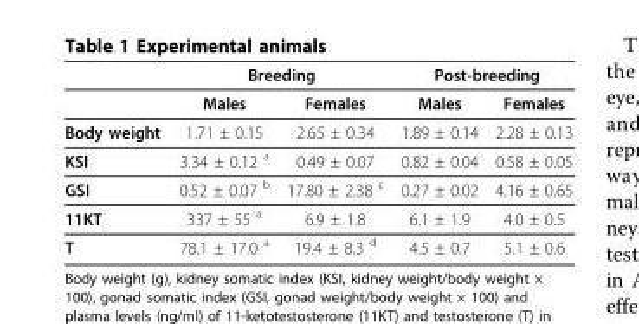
<table><thead><tr><td rowspan="2"></td><td colspan="2">Breeding</td><td colspan="2">Post-breeding</td></tr><tr><td>Males</td><td>Females</td><td>Males</td><td>Females</td></tr></thead><tbody><tr><td>Body weight</td><td>1.71 ± 0.15</td><td>2.65 ± 0.34</td><td>1.89 ± 0.14</td><td>2.28 ± 0.13</td></tr><tr><td>KSI</td><td>3.34 ± 0.12 <sup>a</sup></td><td>0.49 ± 0.07</td><td>0.82 ± 0.04</td><td>0.58 ± 0.05</td></tr><tr><td>GSI</td><td>0.52 ± 0.07 <sup>b</sup></td><td>17.80 ± 2.38 <sup>c</sup></td><td>0.27 ± 0.02</td><td>4.16 ± 0.65</td></tr><tr><td>11KT</td><td>337 ± 55 <sup>a</sup></td><td>6.9 ± 1.8</td><td>6.1 ± 1.9</td><td>4.0 ± 0.5</td></tr><tr><td>T</td><td>78.1 ± 17.0 <sup>a</sup></td><td>19.4 ± 8.3 <sup>d</sup></td><td>4.5 ± 0.7</td><td>5.1 ± 0.6</td></tr></tbody></table>